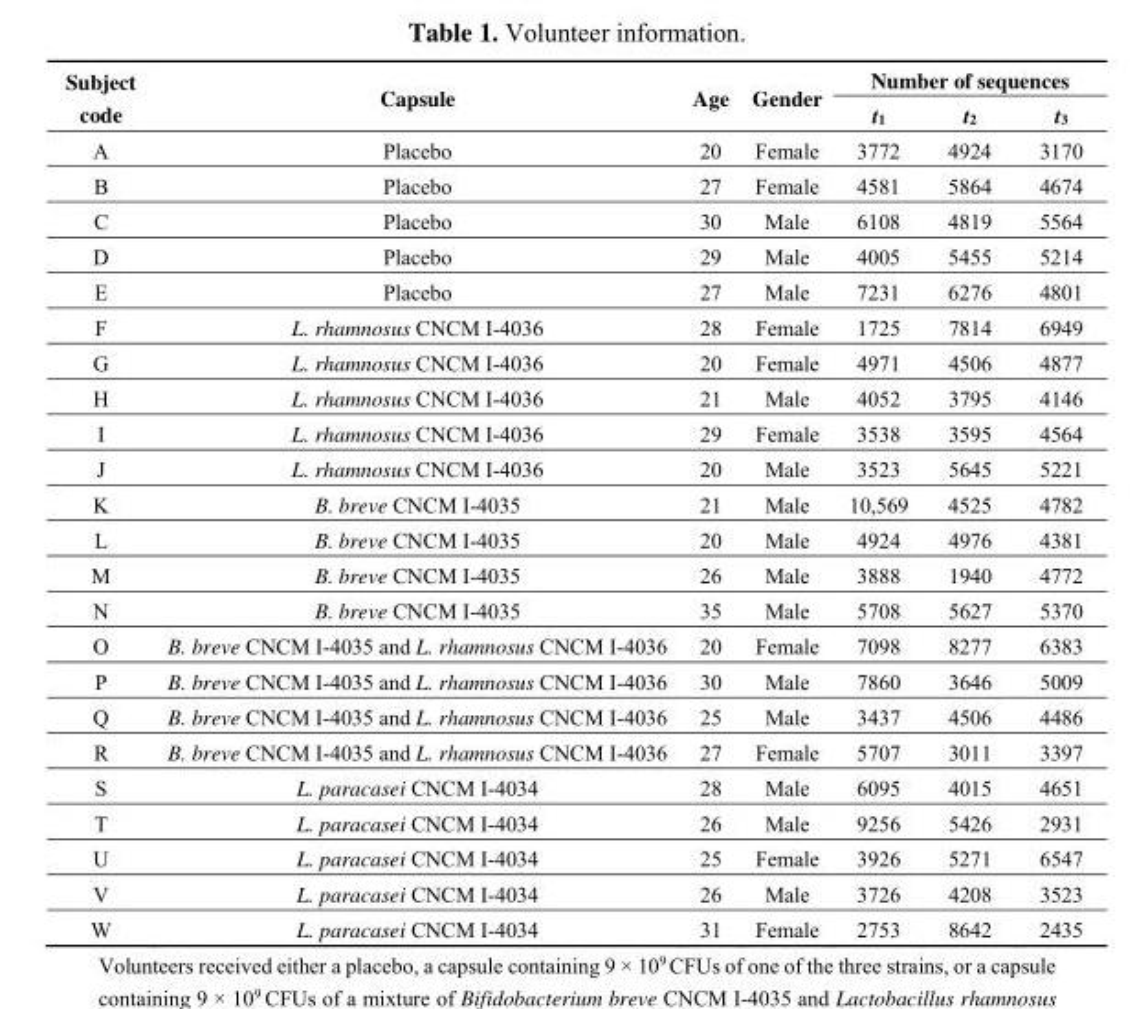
<table><thead><tr><td rowspan="2">Subject code</td><td rowspan="2">Capsule</td><td rowspan="2">Age</td><td rowspan="2">Gender</td><td colspan="3">Number of sequences</td></tr><tr><td>t<sub>1</sub></td><td>t<sub>2</sub></td><td>t<sub>3</sub></td></tr></thead><tbody><tr><td>A</td><td>Placebo</td><td>20</td><td>Female</td><td>3772</td><td>4924</td><td>3170</td></tr><tr><td>B</td><td>Placebo</td><td>27</td><td>Female</td><td>4581</td><td>5864</td><td>4674</td></tr><tr><td>C</td><td>Placebo</td><td>30</td><td>Male</td><td>6108</td><td>4819</td><td>5564</td></tr><tr><td>D</td><td>Placebo</td><td>29</td><td>Male</td><td>4005</td><td>5455</td><td>5214</td></tr><tr><td>E</td><td>Placebo</td><td>27</td><td>Male</td><td>7231</td><td>6276</td><td>4801</td></tr><tr><td>F</td><td>L. rhamnosus CNCM I-4036</td><td>28</td><td>Female</td><td>1725</td><td>7814</td><td>6949</td></tr><tr><td>G</td><td>L. rhamnosus CNCM I-4036</td><td>20</td><td>Female</td><td>4971</td><td>4506</td><td>4877</td></tr><tr><td>H</td><td>L. rhamnosus CNCM I-4036</td><td>21</td><td>Male</td><td>4052</td><td>3795</td><td>4146</td></tr><tr><td>I</td><td>L. rhamnosus CNCM I-4036</td><td>29</td><td>Female</td><td>3538</td><td>3595</td><td>4564</td></tr><tr><td>J</td><td>L. rhamnosus CNCM I-4036</td><td>20</td><td>Male</td><td>3523</td><td>5645</td><td>5221</td></tr><tr><td>K</td><td>B. breve CNCM I-4035</td><td>21</td><td>Male</td><td>10,569</td><td>4525</td><td>4782</td></tr><tr><td>L</td><td>B. breve CNCM I-4035</td><td>20</td><td>Male</td><td>4924</td><td>4976</td><td>4381</td></tr><tr><td>M</td><td>B. breve CNCM I-4035</td><td>26</td><td>Male</td><td>3888</td><td>1940</td><td>4772</td></tr><tr><td>N</td><td>B. breve CNCM I-4035</td><td>35</td><td>Male</td><td>5708</td><td>5627</td><td>5370</td></tr><tr><td>O</td><td>B. breve CNCM I-4035 and L. rhamnosus CNCM I-4036</td><td>20</td><td>Female</td><td>7098</td><td>8277</td><td>6383</td></tr><tr><td>P</td><td>B. breve CNCM I-4035 and L. rhamnosus CNCM I-4036</td><td>30</td><td>Male</td><td>7860</td><td>3646</td><td>5009</td></tr><tr><td>Q</td><td>B. breve CNCM I-4035 and L. rhamnosus CNCM I-4036</td><td>25</td><td>Male</td><td>3437</td><td>4506</td><td>4486</td></tr><tr><td>R</td><td>B. breve CNCM I-4035 and L. rhamnosus CNCM I-4036</td><td>27</td><td>Female</td><td>5707</td><td>3011</td><td>3397</td></tr><tr><td>S</td><td>L. paracasei CNCM I-4034</td><td>28</td><td>Male</td><td>6095</td><td>4015</td><td>4651</td></tr><tr><td>T</td><td>L. paracasei CNCM I-4034</td><td>26</td><td>Male</td><td>9256</td><td>5426</td><td>2931</td></tr><tr><td>U</td><td>L. paracasei CNCM I-4034</td><td>25</td><td>Female</td><td>3926</td><td>5271</td><td>6547</td></tr><tr><td>V</td><td>L. paracasei CNCM I-4034</td><td>26</td><td>Male</td><td>3726</td><td>4208</td><td>3523</td></tr><tr><td>W</td><td>L. paracasei CNCM I-4034</td><td>31</td><td>Female</td><td>2753</td><td>8642</td><td>2435</td></tr></tbody></table>